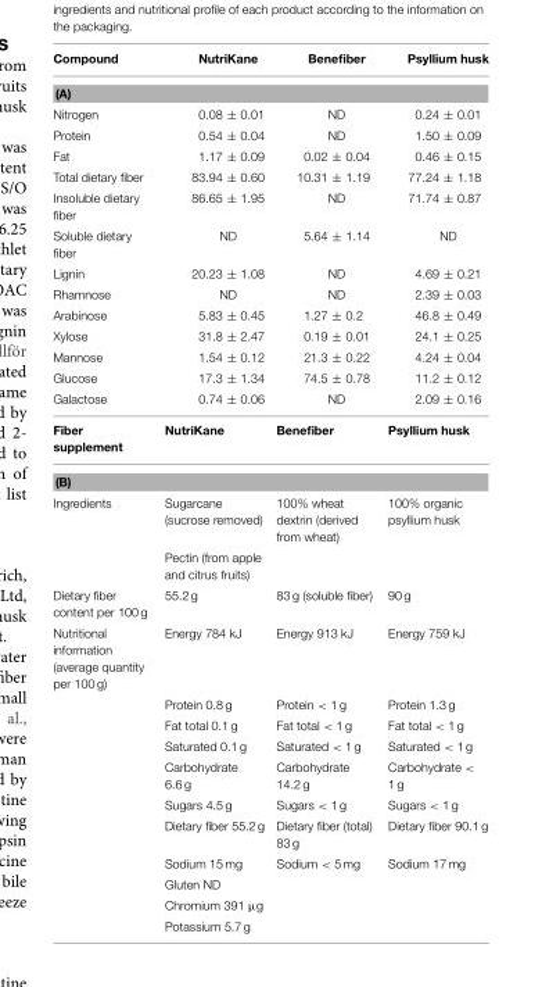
<table><thead><tr><td>Compound</td><td>NutriKane</td><td>Benefiber</td><td>Psyllium husk</td></tr></thead><tbody><tr><td colspan="4">(A)</td></tr><tr><td>Nitrogen</td><td>0.08 ± 0.01</td><td>ND</td><td>0.24 ± 0.01</td></tr><tr><td>Protein</td><td>0.54 ± 0.04</td><td>ND</td><td>1.50 ± 0.09</td></tr><tr><td>Fat</td><td>1.17 ± 0.09</td><td>0.02 ± 0.04</td><td>0.46 ± 0.15</td></tr><tr><td>Total dietary fiber</td><td>83.94 ± 0.60</td><td>10.31 ± 1.19</td><td>77.24 ± 1.18</td></tr><tr><td>Insoluble dietary fiber</td><td>86.65 ± 1.95</td><td>ND</td><td>71.74 ± 0.87</td></tr><tr><td>Soluble dietary fiber</td><td>ND</td><td>5.64 ± 1.14</td><td>ND</td></tr><tr><td>Lignin</td><td>20.23 ± 1.08</td><td>ND</td><td>4.69 ± 0.21</td></tr><tr><td>Rhamnose</td><td>ND</td><td>ND</td><td>2.39 ± 0.03</td></tr><tr><td>Arabinose</td><td>5.83 ± 0.45</td><td>1.27 ± 0.2</td><td>46.8 ± 0.49</td></tr><tr><td>Xylose</td><td>31.8 ± 2.47</td><td>0.19 ± 0.01</td><td>24.1 ± 0.25</td></tr><tr><td>Mannose</td><td>1.54 ± 0.12</td><td>21.3 ± 0.22</td><td>4.24 ± 0.04</td></tr><tr><td>Glucose</td><td>17.3 ± 1.34</td><td>74.5 ± 0.78</td><td>11.2 ± 0.12</td></tr><tr><td>Galactose</td><td>0.74 ± 0.06</td><td>ND</td><td>2.09 ± 0.16</td></tr><tr><td>Fiber supplement</td><td>NutriKane</td><td>Benefiber</td><td>Psyllium husk</td></tr><tr><td colspan="4">(B)</td></tr><tr><td rowspan="2">Ingredients</td><td>Sugarcane (sucrose removed)</td><td>100% wheat dextrin (derived from wheat)</td><td>100% organic psyllium husk</td></tr><tr><td>Pectin (from apple and citrus fruits)</td><td></td><td></td></tr><tr><td>Dietary fiber content per 100 g</td><td>55.2 g</td><td>83 g (soluble fiber)</td><td>90 g</td></tr><tr><td rowspan="11">Nutritional information (average quantity per 100 g)</td><td>Energy 784 kJ</td><td>Energy 913 kJ</td><td>Energy 759 kJ</td></tr><tr><td>Protein 0.8 g</td><td>Protein &lt; 1 g</td><td>Protein 1.3 g</td></tr><tr><td>Fat total 0.1 g</td><td>Fat total &lt; 1 g</td><td>Fat total &lt; 1 g</td></tr><tr><td>Saturated 0.1 g</td><td>Saturated &lt; 1 g</td><td>Saturated &lt; 1 g</td></tr><tr><td>Carbohydrate 6.6 g</td><td>Carbohydrate 14.2 g</td><td>Carbohydrate &lt; 1 g</td></tr><tr><td>Sugars 4.5 g</td><td>Sugars &lt; 1 g</td><td>Sugars &lt; 1 g</td></tr><tr><td>Dietary fiber 55.2 g</td><td>Dietary fiber (total) 83 g</td><td>Dietary fiber 90.1 g</td></tr><tr><td>Sodium 15 mg</td><td>Sodium &lt; 5 mg</td><td>Sodium 17 mg</td></tr><tr><td>Gluten ND</td><td></td><td></td></tr><tr><td>Chromium 391 µg</td><td></td><td></td></tr><tr><td>Potassium 5.7 g</td><td></td><td></td></tr></tbody></table>